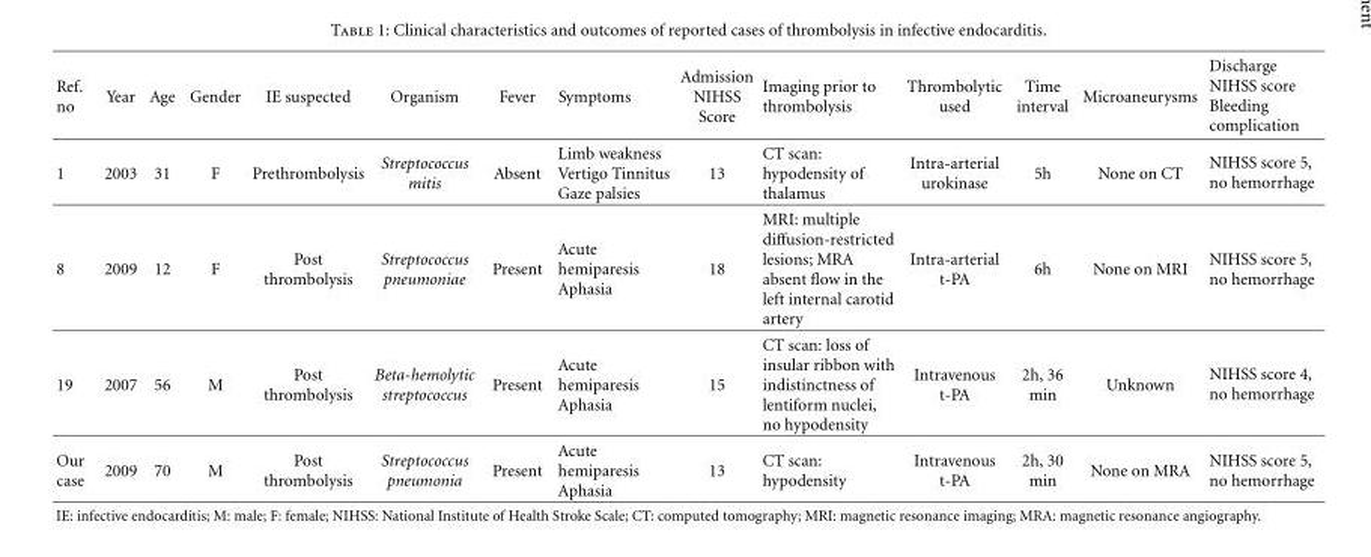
<table><thead><tr><td>Ref. no</td><td>Year</td><td>Age</td><td>Gender</td><td>IE suspected</td><td>Organism</td><td>Fever</td><td>Symptoms</td><td>Admission NIHSS Score</td><td>Imaging prior to thrombolysis</td><td>Thrombolytic used</td><td>Time interval</td><td>Microaneurysms</td><td>Discharge NIHSS score Bleeding complication</td></tr></thead><tbody><tr><td>1</td><td>2003</td><td>31</td><td>F</td><td>Prethrombolysis</td><td>Streptococcus mitis</td><td>Absent</td><td>Limb weakness Vertigo Tinnitus Gaze palsies</td><td>13</td><td>CT scan: hypodensity of thalamus</td><td>Intra-arterial urokinase</td><td>5h</td><td>None on CT</td><td>NIHSS score 5, no hemorrhage</td></tr><tr><td>8</td><td>2009</td><td>12</td><td>F</td><td>Post thrombolysis</td><td>Streptococcus pneumoniae</td><td>Present</td><td>Acute hemiparesis Aphasia</td><td>18</td><td>MRI: multiple diffusion-restricted lesions; MRA absent flow in the left internal carotid artery</td><td>Intra-arterial t-PA</td><td>6h</td><td>None on MRI</td><td>NIHSS score 5, no hemorrhage</td></tr><tr><td>19</td><td>2007</td><td>56</td><td>M</td><td>Post thrombolysis</td><td>Beta-hemolytic streptococcus</td><td>Present</td><td>Acute hemiparesis Aphasia</td><td>15</td><td>CT scan: loss of insular ribbon with indistinctness of lentiform nuclei, no hypodensity</td><td>Intravenous t-PA</td><td>2h, 36 min</td><td>Unknown</td><td>NIHSS score 4, no hemorrhage</td></tr><tr><td>Our case</td><td>2009</td><td>70</td><td>M</td><td>Post thrombolysis</td><td>Streptococcus pneumonia</td><td>Present</td><td>Acute hemiparesis Aphasia</td><td>13</td><td>CT scan: hypodensity</td><td>Intravenous t-PA</td><td>2h, 30 min</td><td>None on MRA</td><td>NIHSS score 5, no hemorrhage</td></tr></tbody></table>